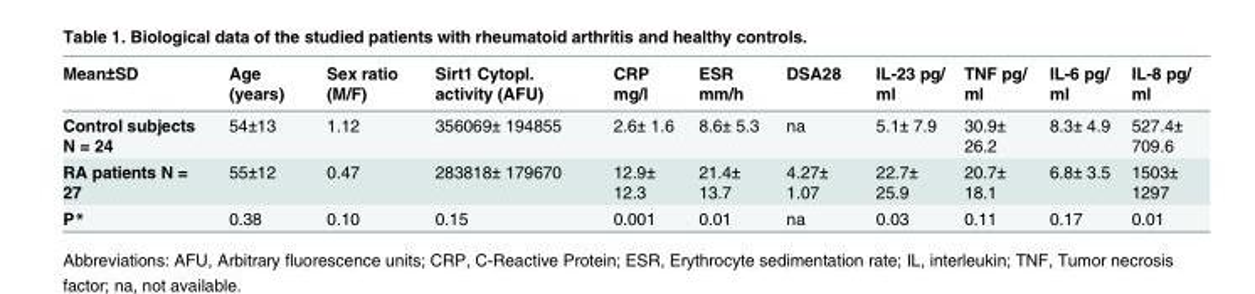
<table><thead><tr><td>Mean±SD</td><td>Age (years)</td><td>Sex ratio (M/F)</td><td>Sirt1 Cytopl. activity (AFU)</td><td>CRP mg/l</td><td>ESR mm/h</td><td>DSA28</td><td>IL-23 pg/ ml</td><td>TNF pg/ ml</td><td>IL-6 pg/ ml</td><td>IL-8 pg/ ml</td></tr></thead><tbody><tr><td>Control subjects N = 24</td><td>54±13</td><td>1.12</td><td>356069± 194855</td><td>2.6± 1.6</td><td>8.6± 5.3</td><td>na</td><td>5.1± 7.9</td><td>30.9± 26.2</td><td>8.3± 4.9</td><td>527.4± 709.6</td></tr><tr><td>RA patients N = 27</td><td>55±12</td><td>0.47</td><td>283818± 179670</td><td>12.9± 12.3</td><td>21.4± 13.7</td><td>4.27± 1.07</td><td>22.7± 25.9</td><td>20.7± 18.1</td><td>6.8± 3.5</td><td>1503± 1297</td></tr><tr><td>P*</td><td>0.38</td><td>0.10</td><td>0.15</td><td>0.001</td><td>0.01</td><td>na</td><td>0.03</td><td>0.11</td><td>0.17</td><td>0.01</td></tr></tbody></table>